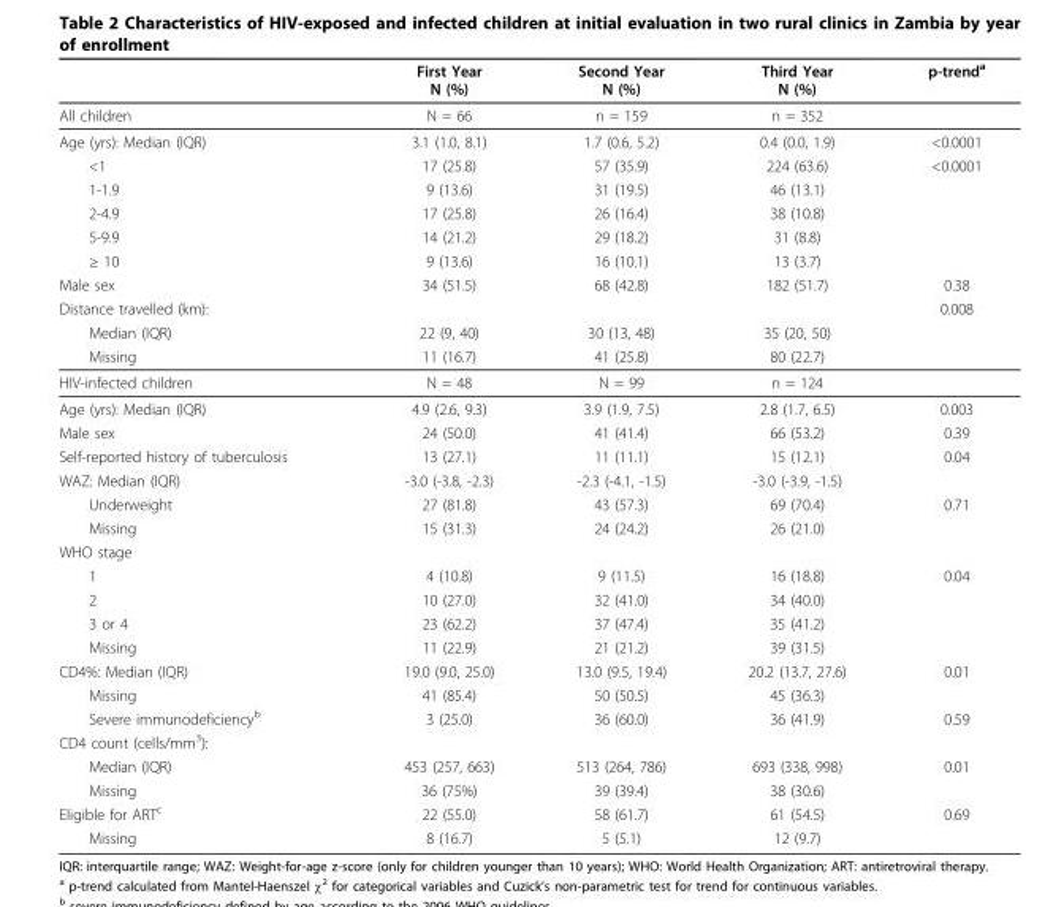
<table><thead><tr><td></td><td>First Year N (%)</td><td>Second Year N (%)</td><td>Third Year N (%)</td><td>p-trend<sup>a</sup></td></tr></thead><tbody><tr><td>All children</td><td>N = 66</td><td>n = 159</td><td>n = 352</td><td></td></tr><tr><td>Age (yrs): Median (IQR)</td><td>3.1 (1.0, 8.1)</td><td>1.7 (0.6, 5.2)</td><td>0.4 (0.0, 1.9)</td><td>&lt;0.0001</td></tr><tr><td>&lt;1</td><td>17 (25.8)</td><td>57 (35.9)</td><td>224 (63.6)</td><td>&lt;0.0001</td></tr><tr><td>1-1.9</td><td>9 (13.6)</td><td>31 (19.5)</td><td>46 (13.1)</td><td></td></tr><tr><td>2-4.9</td><td>17 (25.8)</td><td>26 (16.4)</td><td>38 (10.8)</td><td></td></tr><tr><td>5-9.9</td><td>14 (21.2)</td><td>29 (18.2)</td><td>31 (8.8)</td><td></td></tr><tr><td>≥ 10</td><td>9 (13.6)</td><td>16 (10.1)</td><td>13 (3.7)</td><td></td></tr><tr><td>Male sex</td><td>34 (51.5)</td><td>68 (42.8)</td><td>182 (51.7)</td><td>0.38</td></tr><tr><td>Distance travelled (km):</td><td></td><td></td><td></td><td>0.008</td></tr><tr><td>Median (IQR)</td><td>22 (9, 40)</td><td>30 (13, 48)</td><td>35 (20, 50)</td><td></td></tr><tr><td>Missing</td><td>11 (16.7)</td><td>41 (25.8)</td><td>80 (22.7)</td><td></td></tr><tr><td>HIV-infected children</td><td>N = 48</td><td>N = 99</td><td>n = 124</td><td></td></tr><tr><td>Age (yrs): Median (IQR)</td><td>4.9 (2.6, 9.3)</td><td>3.9 (1.9, 7.5)</td><td>2.8 (1.7, 6.5)</td><td>0.003</td></tr><tr><td>Male sex</td><td>24 (50.0)</td><td>41 (41.4)</td><td>66 (53.2)</td><td>0.39</td></tr><tr><td>Self-reported history of tuberculosis</td><td>13 (27.1)</td><td>11 (11.1)</td><td>15 (12.1)</td><td>0.04</td></tr><tr><td>WAZ: Median (IQR)</td><td>-3.0 (-3.8, -2.3)</td><td>-2.3 (-4.1, -1.5)</td><td>-3.0 (-3.9, -1.5)</td><td></td></tr><tr><td>Underweight</td><td>27 (81.8)</td><td>43 (57.3)</td><td>69 (70.4)</td><td>0.71</td></tr><tr><td>Missing</td><td>15 (31.3)</td><td>24 (24.2)</td><td>26 (21.0)</td><td></td></tr><tr><td colspan="5">WHO stage</td></tr><tr><td>1</td><td>4 (10.8)</td><td>9 (11.5)</td><td>16 (18.8)</td><td>0.04</td></tr><tr><td>2</td><td>10 (27.0)</td><td>32 (41.0)</td><td>34 (40.0)</td><td></td></tr><tr><td>3 or 4</td><td>23 (62.2)</td><td>37 (47.4)</td><td>35 (41.2)</td><td></td></tr><tr><td>Missing</td><td>11 (22.9)</td><td>21 (21.2)</td><td>39 (31.5)</td><td></td></tr><tr><td>CD4%: Median (IQR)</td><td>19.0 (9.0, 25.0)</td><td>13.0 (9.5, 19.4)</td><td>20.2 (13.7, 27.6)</td><td>0.01</td></tr><tr><td>Missing</td><td>41 (85.4)</td><td>50 (50.5)</td><td>45 (36.3)</td><td></td></tr><tr><td>Severe immunodeficiency<sup>b</sup></td><td>3 (25.0)</td><td>36 (60.0)</td><td>36 (41.9)</td><td>0.59</td></tr><tr><td colspan="5">CD4 count (cells/mm<sup>3</sup>):</td></tr><tr><td>Median (IQR)</td><td>453 (257, 663)</td><td>513 (264, 786)</td><td>693 (338, 998)</td><td>0.01</td></tr><tr><td>Missing</td><td>36 (75%)</td><td>39 (39.4)</td><td>38 (30.6)</td><td></td></tr><tr><td>Eligible for ART<sup>c</sup></td><td>22 (55.0)</td><td>58 (61.7)</td><td>61 (54.5)</td><td>0.69</td></tr><tr><td>Missing</td><td>8 (16.7)</td><td>5 (5.1)</td><td>12 (9.7)</td><td></td></tr></tbody></table>